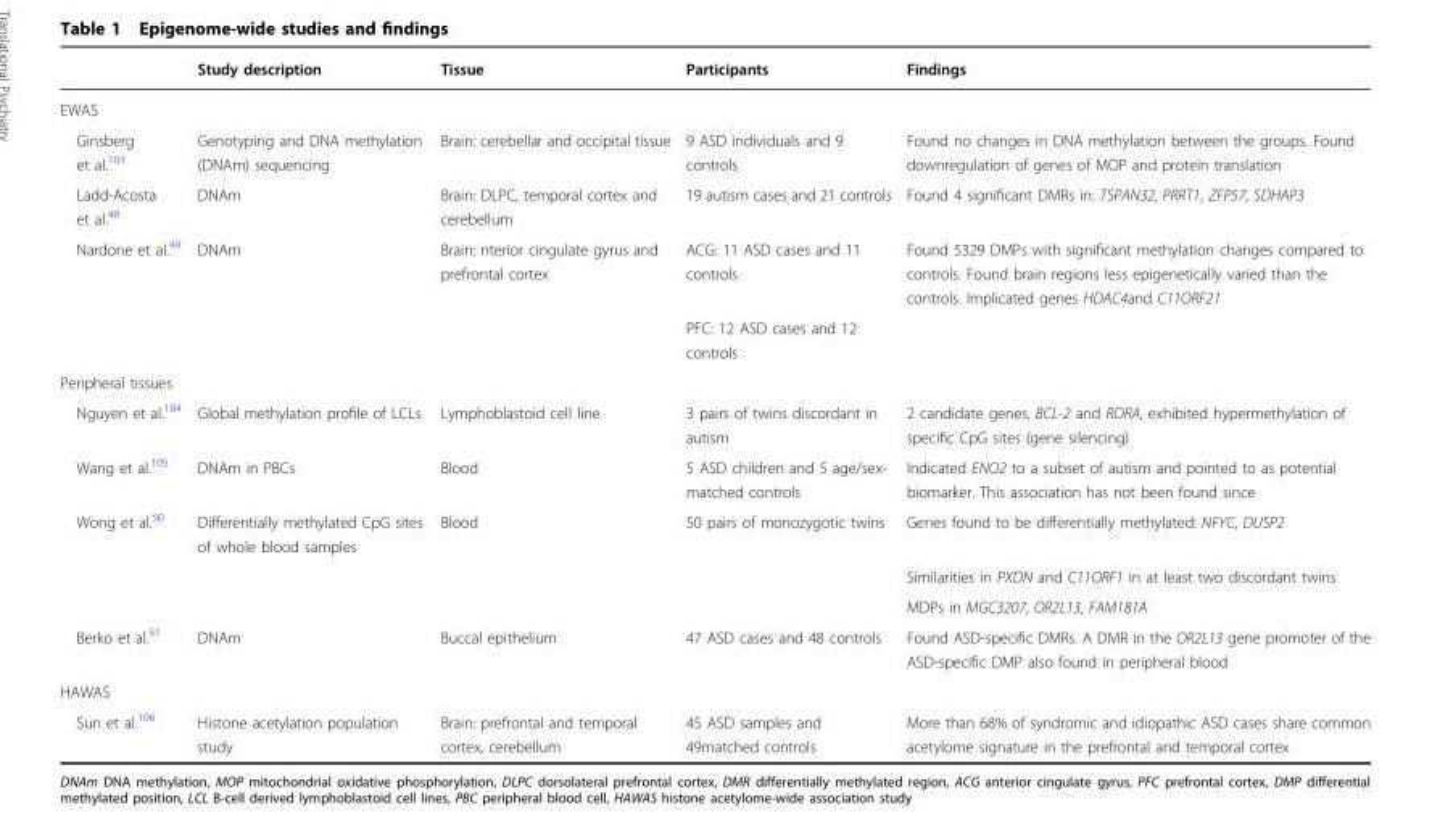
<table><thead><tr><td></td><td>Study description</td><td>Tissue</td><td>Participants</td><td>Findings</td></tr></thead><tbody><tr><td colspan="5">EWAS</td></tr><tr><td>Ginsberg et al.<sup>103</sup></td><td>Genotyping and DNA methylation (DNAm) sequencing</td><td>Brain: cerebellar and occipital tissue</td><td>9 ASD individuals and 9 controls</td><td>Found no changes in DNA methylation between the groups. Found downregulation of genes of MOP and protein translation</td></tr><tr><td>Ladd-Acosta et al.<sup>48</sup></td><td>DNAm</td><td>Brain: DLPC, temporal cortex and cerebellum</td><td>19 autism cases and 21 controls</td><td>Found 4 significant DMRs in: TSPAN32, PRRT1, ZFP57, SDHAP3</td></tr><tr><td rowspan="2">Nardone et al.<sup>49</sup></td><td>DNAm</td><td>Brain: nterior cingulate gyrus and prefrontal cortex</td><td>ACG: 11 ASD cases and 11 controls</td><td>Found 5329 DMPs with significant methylation changes compared to controls. Found brain regions less epigenetically varied than the controls. Implicated genes HDAC4and C11ORF21</td></tr><tr><td></td><td></td><td>PFC: 12 ASD cases and 12 controls</td><td></td></tr><tr><td colspan="5">Peripheral tissues</td></tr><tr><td>Nguyen et al.<sup>104</sup></td><td>Global methylation profile of LCLs</td><td>Lymphoblastoid cell line</td><td>3 pairs of twins discordant in autism</td><td>2 candidate genes, BCL-2 and RORA, exhibited hypermethylation of specific CpG sites (gene silencing)</td></tr><tr><td>Wang et al.<sup>105</sup></td><td>DNAm in PBCs</td><td>Blood</td><td>5 ASD children and 5 age/sex- matched controls</td><td>Indicated ENO2 to a subset of autism and pointed to as potential biomarker. This association has not been found since</td></tr><tr><td rowspan="3">Wong et al.<sup>50</sup></td><td>Differentially methylated CpG sites of whole blood samples</td><td>Blood</td><td>50 pairs of monozygotic twins</td><td>Genes found to be differentially methylated: NFYC, DUSP2</td></tr><tr><td></td><td></td><td></td><td>Similarities in PXDN and C11ORF1 in at least two discordant twins</td></tr><tr><td></td><td></td><td></td><td>MDPs in MGC3207, OR2L13, FAM181A</td></tr><tr><td>Berko et al.<sup>51</sup></td><td>DNAm</td><td>Buccal epithelium</td><td>47 ASD cases and 48 controls</td><td>Found ASD-specific DMRs. A DMR in the OR2L13 gene promoter of the ASD-specific DMP also found in peripheral blood</td></tr><tr><td colspan="5">HAWAS</td></tr><tr><td>Sun et al.<sup>106</sup></td><td>Histone acetylation population study</td><td>Brain: prefrontal and temporal cortex, cerebellum</td><td>45 ASD samples and 49matched controls</td><td>More than 68% of syndromic and idiopathic ASD cases share common acetylome signature in the prefrontal and temporal cortex</td></tr></tbody></table>